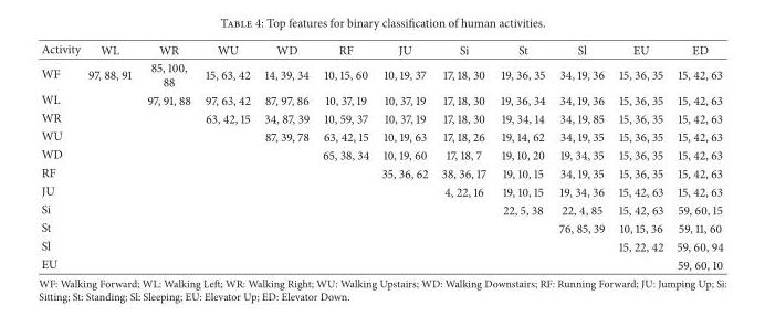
<table><thead><tr><td>Activity</td><td>WL</td><td>WR</td><td>WU</td><td>WD</td><td>RF</td><td>JU</td><td>Si</td><td>St</td><td>Sl</td><td>EU</td><td>ED</td></tr></thead><tbody><tr><td>WF</td><td>97, 88, 91</td><td>85, 100, 88</td><td>15, 63, 42</td><td>14, 39, 34</td><td>10, 15, 60</td><td>10, 19, 37</td><td>17, 18, 30</td><td>19, 36, 35</td><td>34, 19, 36</td><td>15, 36, 35</td><td>15, 42, 63</td></tr><tr><td>WL</td><td></td><td>97, 91, 88</td><td>97, 63, 42</td><td>87, 97, 86</td><td>10, 37, 19</td><td>10, 37, 19</td><td>17, 18, 30</td><td>19, 36, 34</td><td>34, 19, 36</td><td>15, 36, 35</td><td>15, 42, 63</td></tr><tr><td>WR</td><td></td><td></td><td>63, 42, 15</td><td>34, 87, 39</td><td>10, 59, 37</td><td>10, 37, 19</td><td>17, 18, 30</td><td>19, 34, 14</td><td>34, 19, 85</td><td>15, 36, 35</td><td>15, 42, 63</td></tr><tr><td>WU</td><td></td><td></td><td></td><td>87, 39, 78</td><td>63, 42, 15</td><td>10, 19, 63</td><td>17, 18, 26</td><td>19, 14, 62</td><td>34, 19, 35</td><td>15, 36, 35</td><td>15, 42, 63</td></tr><tr><td>WD</td><td></td><td></td><td></td><td></td><td>65, 38, 34</td><td>10, 19, 60</td><td>17, 18, 7</td><td>19, 10, 20</td><td>19, 34, 35</td><td>15, 36, 35</td><td>15, 42, 63</td></tr><tr><td>RF</td><td></td><td></td><td></td><td></td><td></td><td>35, 36, 62</td><td>38, 36, 17</td><td>19, 10, 15</td><td>34, 19, 35</td><td>15, 36, 35</td><td>15, 42, 63</td></tr><tr><td>JU</td><td></td><td></td><td></td><td></td><td></td><td></td><td>4, 22, 16</td><td>19, 10, 15</td><td>19, 34, 36</td><td>15, 42, 63</td><td>15, 42, 63</td></tr><tr><td>Si</td><td></td><td></td><td></td><td></td><td></td><td></td><td></td><td>22, 5, 38</td><td>22, 4, 85</td><td>15, 42, 63</td><td>59, 60, 15</td></tr><tr><td>St</td><td></td><td></td><td></td><td></td><td></td><td></td><td></td><td></td><td>76, 85, 39</td><td>10, 15, 36</td><td>59, 11, 60</td></tr><tr><td>Sl</td><td></td><td></td><td></td><td></td><td></td><td></td><td></td><td></td><td></td><td>15, 22, 42</td><td>59, 60, 94</td></tr><tr><td>EU</td><td></td><td></td><td></td><td></td><td></td><td></td><td></td><td></td><td></td><td></td><td>59, 60, 10</td></tr></tbody></table>